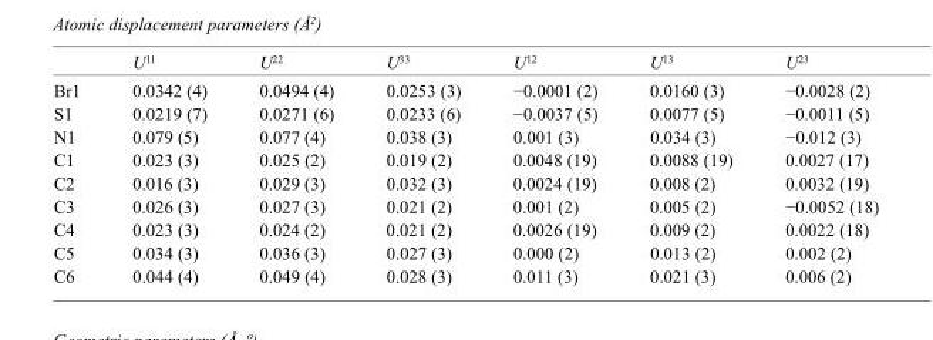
<table><thead><tr><td></td><td>U<sup>11</sup></td><td>U<sup>22</sup></td><td>U<sup>33</sup></td><td>U<sup>12</sup></td><td>U<sup>13</sup></td><td>U<sup>23</sup></td></tr></thead><tbody><tr><td>Br1</td><td>0.0342 (4)</td><td>0.0494 (4)</td><td>0.0253 (3)</td><td>−0.0001 (2)</td><td>0.0160 (3)</td><td>−0.0028 (2)</td></tr><tr><td>S1</td><td>0.0219 (7)</td><td>0.0271 (6)</td><td>0.0233 (6)</td><td>−0.0037 (5)</td><td>0.0077 (5)</td><td>−0.0011 (5)</td></tr><tr><td>N1</td><td>0.079 (5)</td><td>0.077 (4)</td><td>0.038 (3)</td><td>0.001 (3)</td><td>0.034 (3)</td><td>−0.012 (3)</td></tr><tr><td>C1</td><td>0.023 (3)</td><td>0.025 (2)</td><td>0.019 (2)</td><td>0.0048 (19)</td><td>0.0088 (19)</td><td>0.0027 (17)</td></tr><tr><td>C2</td><td>0.016 (3)</td><td>0.029 (3)</td><td>0.032 (3)</td><td>0.0024 (19)</td><td>0.008 (2)</td><td>0.0032 (19)</td></tr><tr><td>C3</td><td>0.026 (3)</td><td>0.027 (3)</td><td>0.021 (2)</td><td>0.001 (2)</td><td>0.005 (2)</td><td>−0.0052 (18)</td></tr><tr><td>C4</td><td>0.023 (3)</td><td>0.024 (2)</td><td>0.021 (2)</td><td>0.0026 (19)</td><td>0.009 (2)</td><td>0.0022 (18)</td></tr><tr><td>C5</td><td>0.034 (3)</td><td>0.036 (3)</td><td>0.027 (3)</td><td>0.000 (2)</td><td>0.013 (2)</td><td>0.002 (2)</td></tr><tr><td>C6</td><td>0.044 (4)</td><td>0.049 (4)</td><td>0.028 (3)</td><td>0.011 (3)</td><td>0.021 (3)</td><td>0.006 (2)</td></tr></tbody></table>